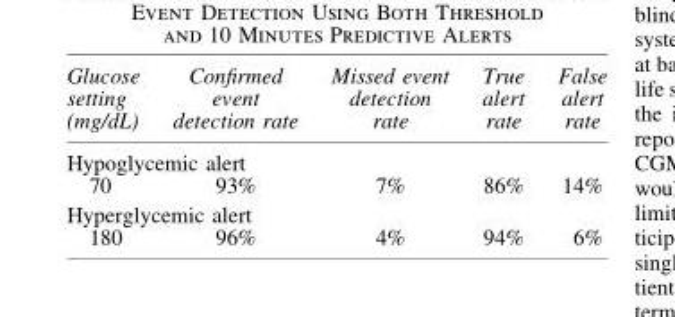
<table><thead><tr><td>Glucose setting (mg/dL)</td><td>Confirmed event detection rate</td><td>Missed event detection rate</td><td>True alert rate</td><td>False alert rate</td></tr></thead><tbody><tr><td colspan="5">Hypoglycemic alert</td></tr><tr><td>70</td><td>93%</td><td>7%</td><td>86%</td><td>14%</td></tr><tr><td colspan="5">Hyperglycemic alert</td></tr><tr><td>180</td><td>96%</td><td>4%</td><td>94%</td><td>6%</td></tr></tbody></table>